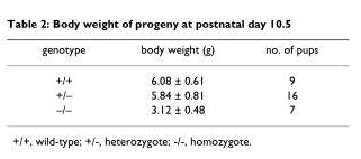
<table><thead><tr><td>genotype</td><td>body weight (g)</td><td>no. of pups</td></tr></thead><tbody><tr><td>+/+</td><td>6.08 ± 0.61</td><td>9</td></tr><tr><td>+/–</td><td>5.84 ± 0.81</td><td>16</td></tr><tr><td>–/–</td><td>3.12 ± 0.48</td><td>7</td></tr></tbody></table>